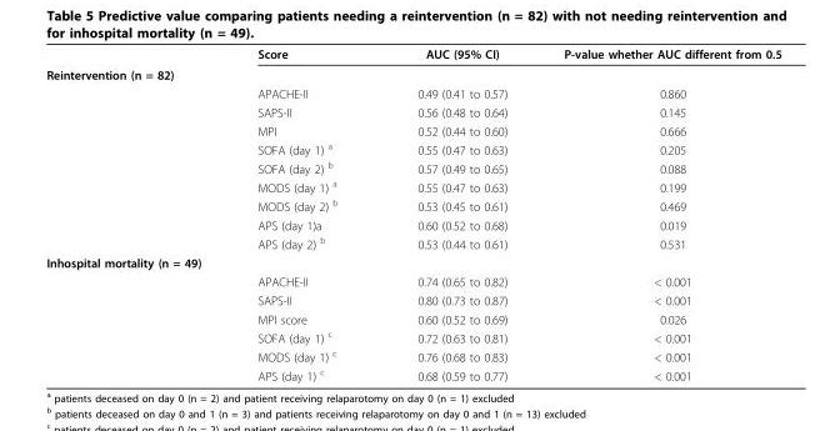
<table><thead><tr><td></td><td>Score</td><td>AUC (95% CI)</td><td>P-value whether AUC different from 0.5</td></tr></thead><tbody><tr><td colspan="4">Reintervention (n = 82)</td></tr><tr><td></td><td>APACHE-II</td><td>0.49 (0.41 to 0.57)</td><td>0.860</td></tr><tr><td></td><td>SAPS-II</td><td>0.56 (0.48 to 0.64)</td><td>0.145</td></tr><tr><td></td><td>MPI</td><td>0.52 (0.44 to 0.60)</td><td>0.666</td></tr><tr><td></td><td>SOFA (day 1) <sup>a</sup></td><td>0.55 (0.47 to 0.63)</td><td>0.205</td></tr><tr><td></td><td>SOFA (day 2) <sup>b</sup></td><td>0.57 (0.49 to 0.65)</td><td>0.088</td></tr><tr><td></td><td>MODS (day 1) <sup>a</sup></td><td>0.55 (0.47 to 0.63)</td><td>0.199</td></tr><tr><td></td><td>MODS (day 2) <sup>b</sup></td><td>0.53 (0.45 to 0.61)</td><td>0.469</td></tr><tr><td></td><td>APS (day 1)a</td><td>0.60 (0.52 to 0.68)</td><td>0.019</td></tr><tr><td></td><td>APS (day 2) <sup>b</sup></td><td>0.53 (0.44 to 0.61)</td><td>0.531</td></tr><tr><td colspan="4">Inhospital mortality (n = 49)</td></tr><tr><td></td><td>APACHE-II</td><td>0.74 (0.65 to 0.82)</td><td>&lt; 0.001</td></tr><tr><td></td><td>SAPS-II</td><td>0.80 (0.73 to 0.87)</td><td>&lt; 0.001</td></tr><tr><td></td><td>MPI score</td><td>0.60 (0.52 to 0.69)</td><td>0.026</td></tr><tr><td></td><td>SOFA (day 1) <sup>c</sup></td><td>0.72 (0.63 to 0.81)</td><td>&lt; 0.001</td></tr><tr><td></td><td>MODS (day 1) <sup>c</sup></td><td>0.76 (0.68 to 0.83)</td><td>&lt; 0.001</td></tr><tr><td></td><td>APS (day 1) <sup>c</sup></td><td>0.68 (0.59 to 0.77)</td><td>&lt; 0.001</td></tr></tbody></table>